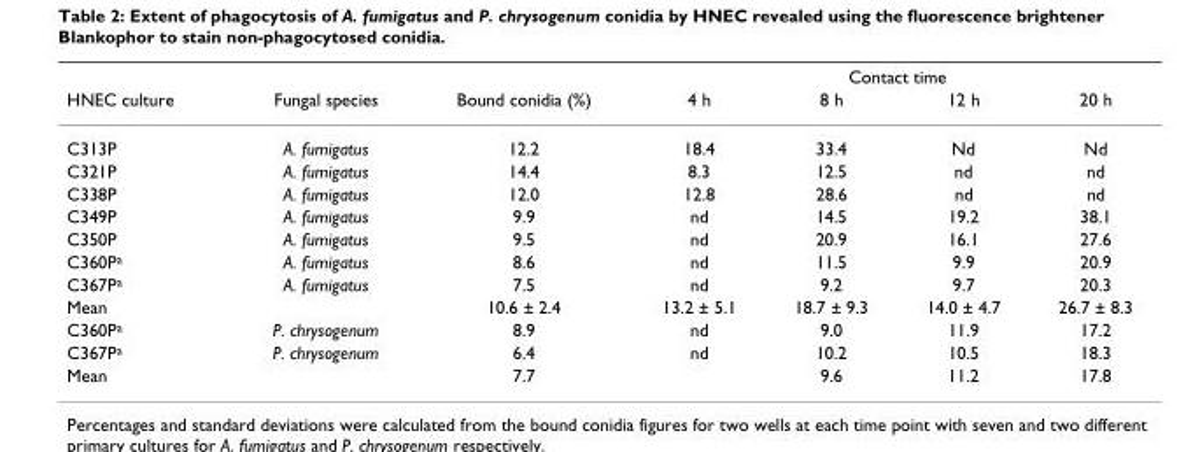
<table><thead><tr><td rowspan="2">HNEC culture</td><td rowspan="2">Fungal species</td><td rowspan="2">Bound conidia (%)</td><td colspan="4">Contact time</td></tr><tr><td>4 h</td><td>8 h</td><td>12 h</td><td>20 h</td></tr></thead><tbody><tr><td>C313P</td><td>A. fumigatus</td><td>12.2</td><td>18.4</td><td>33.4</td><td>Nd</td><td>Nd</td></tr><tr><td>C321P</td><td>A. fumigatus</td><td>14.4</td><td>8.3</td><td>12.5</td><td>nd</td><td>nd</td></tr><tr><td>C338P</td><td>A. fumigatus</td><td>12.0</td><td>12.8</td><td>28.6</td><td>nd</td><td>nd</td></tr><tr><td>C349P</td><td>A. fumigatus</td><td>9.9</td><td>nd</td><td>14.5</td><td>19.2</td><td>38.1</td></tr><tr><td>C350P</td><td>A. fumigatus</td><td>9.5</td><td>nd</td><td>20.9</td><td>16.1</td><td>27.6</td></tr><tr><td>C360P<sup>a</sup></td><td>A. fumigatus</td><td>8.6</td><td>nd</td><td>11.5</td><td>9.9</td><td>20.9</td></tr><tr><td>C367P<sup>a</sup></td><td>A. fumigatus</td><td>7.5</td><td>nd</td><td>9.2</td><td>9.7</td><td>20.3</td></tr><tr><td>Mean</td><td></td><td>10.6 ± 2.4</td><td>13.2 ± 5.1</td><td>18.7 ± 9.3</td><td>14.0 ± 4.7</td><td>26.7 ± 8.3</td></tr><tr><td>C360P<sup>a</sup></td><td>P. chrysogenum</td><td>8.9</td><td>nd</td><td>9.0</td><td>11.9</td><td>17.2</td></tr><tr><td>C367P<sup>a</sup></td><td>P. chrysogenum</td><td>6.4</td><td>nd</td><td>10.2</td><td>10.5</td><td>18.3</td></tr><tr><td>Mean</td><td></td><td>7.7</td><td></td><td>9.6</td><td>11.2</td><td>17.8</td></tr></tbody></table>